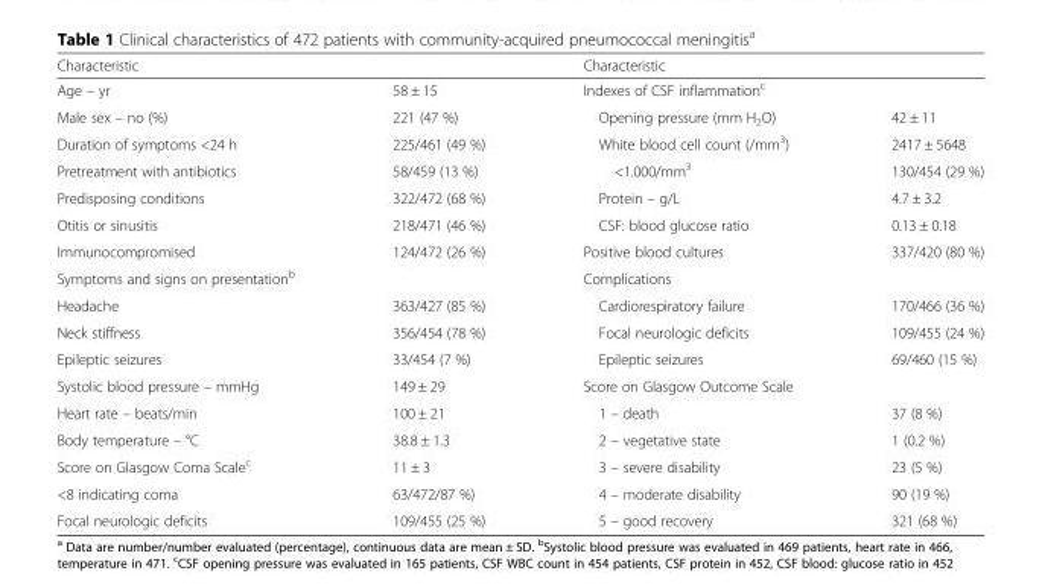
<table><thead><tr><td>Characteristic</td><td></td><td>Characteristic</td><td></td></tr></thead><tbody><tr><td>Age – yr</td><td>58 ± 15</td><td>Indexes of CSF inflammation<sup>c</sup></td><td></td></tr><tr><td>Male sex – no (%)</td><td>221 (47 %)</td><td>Opening pressure (mm H<sub>2</sub>O)</td><td>42 ± 11</td></tr><tr><td>Duration of symptoms &lt;24 h</td><td>225/461 (49 %)</td><td>White blood cell count (/mm<sup>3</sup>)</td><td>2417 ± 5648</td></tr><tr><td>Pretreatment with antibiotics</td><td>58/459 (13 %)</td><td>&lt;1.000/mm<sup>3</sup></td><td>130/454 (29 %)</td></tr><tr><td>Predisposing conditions</td><td>322/472 (68 %)</td><td>Protein – g/L</td><td>4.7 ± 3.2</td></tr><tr><td>Otitis or sinusitis</td><td>218/471 (46 %)</td><td>CSF: blood glucose ratio</td><td>0.13 ± 0.18</td></tr><tr><td>Immunocompromised</td><td>124/472 (26 %)</td><td>Positive blood cultures</td><td>337/420 (80 %)</td></tr><tr><td>Symptoms and signs on presentation<sup>b</sup></td><td></td><td>Complications</td><td></td></tr><tr><td>Headache</td><td>363/427 (85 %)</td><td>Cardiorespiratory failure</td><td>170/466 (36 %)</td></tr><tr><td>Neck stiffness</td><td>356/454 (78 %)</td><td>Focal neurologic deficits</td><td>109/455 (24 %)</td></tr><tr><td>Epileptic seizures</td><td>33/454 (7 %)</td><td>Epileptic seizures</td><td>69/460 (15 %)</td></tr><tr><td>Systolic blood pressure – mmHg</td><td>149 ± 29</td><td>Score on Glasgow Outcome Scale</td><td></td></tr><tr><td>Heart rate – beats/min</td><td>100 ± 21</td><td>1 – death</td><td>37 (8 %)</td></tr><tr><td>Body temperature – °C</td><td>38.8 ± 1.3</td><td>2 – vegetative state</td><td>1 (0.2 %)</td></tr><tr><td>Score on Glasgow Coma Scale<sup>c</sup></td><td>11 ± 3</td><td>3 – severe disability</td><td>23 (5 %)</td></tr><tr><td>&lt;8 indicating coma</td><td>63/472/87 %)</td><td>4 – moderate disability</td><td>90 (19 %)</td></tr><tr><td>Focal neurologic deficits</td><td>109/455 (25 %)</td><td>5 – good recovery</td><td>321 (68 %)</td></tr></tbody></table>